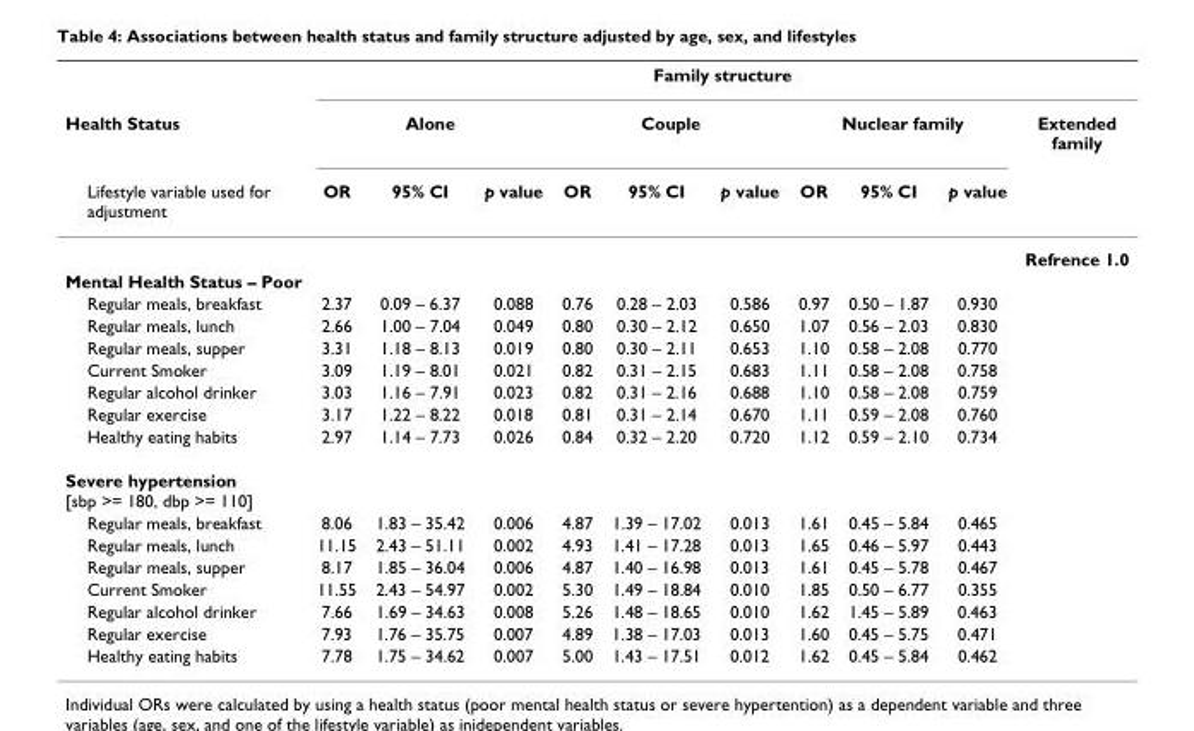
<table><thead><tr><td rowspan="3">Health Status Lifestyle variable used for adjustment</td><td colspan="10">Family structure</td></tr><tr><td colspan="3">Alone</td><td colspan="3">Couple</td><td colspan="3">Nuclear family</td><td rowspan="2">Extended family</td></tr><tr><td>OR</td><td>95% CI</td><td>p value</td><td>OR</td><td>95% CI</td><td>p value</td><td>OR</td><td>95% CI</td><td>p value</td></tr></thead><tbody><tr><td></td><td></td><td></td><td></td><td></td><td></td><td></td><td></td><td></td><td></td><td>Refrence 1.0</td></tr><tr><td colspan="11">Mental Health Status – Poor</td></tr><tr><td>Regular meals, breakfast</td><td>2.37</td><td>0.09 – 6.37</td><td>0.088</td><td>0.76</td><td>0.28 – 2.03</td><td>0.586</td><td>0.97</td><td>0.50 – 1.87</td><td>0.930</td><td></td></tr><tr><td>Regular meals, lunch</td><td>2.66</td><td>1.00 – 7.04</td><td>0.049</td><td>0.80</td><td>0.30 – 2.12</td><td>0.650</td><td>1.07</td><td>0.56 – 2.03</td><td>0.830</td><td></td></tr><tr><td>Regular meals, supper</td><td>3.31</td><td>1.18 – 8.13</td><td>0.019</td><td>0.80</td><td>0.30 – 2.11</td><td>0.653</td><td>1.10</td><td>0.58 – 2.08</td><td>0.770</td><td></td></tr><tr><td>Current Smoker</td><td>3.09</td><td>1.19 – 8.01</td><td>0.021</td><td>0.82</td><td>0.31 – 2.15</td><td>0.683</td><td>1.11</td><td>0.58 – 2.08</td><td>0.758</td><td></td></tr><tr><td>Regular alcohol drinker</td><td>3.03</td><td>1.16 – 7.91</td><td>0.023</td><td>0.82</td><td>0.31 – 2.16</td><td>0.688</td><td>1.10</td><td>0.58 – 2.08</td><td>0.759</td><td></td></tr><tr><td>Regular exercise</td><td>3.17</td><td>1.22 – 8.22</td><td>0.018</td><td>0.81</td><td>0.31 – 2.14</td><td>0.670</td><td>1.11</td><td>0.59 – 2.08</td><td>0.760</td><td></td></tr><tr><td>Healthy eating habits</td><td>2.97</td><td>1.14 – 7.73</td><td>0.026</td><td>0.84</td><td>0.32 – 2.20</td><td>0.720</td><td>1.12</td><td>0.59 – 2.10</td><td>0.734</td><td></td></tr><tr><td colspan="11">Severe hypertension [sbp &gt;= 180, dbp &gt;= 110]</td></tr><tr><td>Regular meals, breakfast</td><td>8.06</td><td>1.83 – 35.42</td><td>0.006</td><td>4.87</td><td>1.39 – 17.02</td><td>0.013</td><td>1.61</td><td>0.45 – 5.84</td><td>0.465</td><td></td></tr><tr><td>Regular meals, lunch</td><td>11.15</td><td>2.43 – 51.11</td><td>0.002</td><td>4.93</td><td>1.41 – 17.28</td><td>0.013</td><td>1.65</td><td>0.46 – 5.97</td><td>0.443</td><td></td></tr><tr><td>Regular meals, supper</td><td>8.17</td><td>1.85 – 36.04</td><td>0.006</td><td>4.87</td><td>1.40 – 16.98</td><td>0.013</td><td>1.61</td><td>0.45 – 5.78</td><td>0.467</td><td></td></tr><tr><td>Current Smoker</td><td>11.55</td><td>2.43 – 54.97</td><td>0.002</td><td>5.30</td><td>1.49 – 18.84</td><td>0.010</td><td>1.85</td><td>0.50 – 6.77</td><td>0.355</td><td></td></tr><tr><td>Regular alcohol drinker</td><td>7.66</td><td>1.69 – 34.63</td><td>0.008</td><td>5.26</td><td>1.48 – 18.65</td><td>0.010</td><td>1.62</td><td>1.45 – 5.89</td><td>0.463</td><td></td></tr><tr><td>Regular exercise</td><td>7.93</td><td>1.76 – 35.75</td><td>0.007</td><td>4.89</td><td>1.38 – 17.03</td><td>0.013</td><td>1.60</td><td>0.45 – 5.75</td><td>0.471</td><td></td></tr><tr><td>Healthy eating habits</td><td>7.78</td><td>1.75 – 34.62</td><td>0.007</td><td>5.00</td><td>1.43 – 17.51</td><td>0.012</td><td>1.62</td><td>0.45 – 5.84</td><td>0.462</td><td></td></tr></tbody></table>